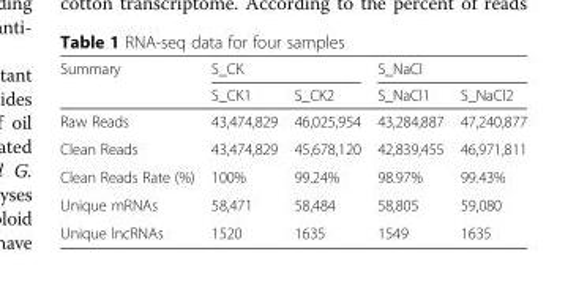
<table><thead><tr><td rowspan="2">Summary</td><td colspan="2">S_CK</td><td colspan="2">S_NaCl</td></tr><tr><td>S_CK1</td><td>S_CK2</td><td>S_NaCl1</td><td>S_NaCl2</td></tr></thead><tbody><tr><td>Raw Reads</td><td>43,474,829</td><td>46,025,954</td><td>43,284,887</td><td>47,240,877</td></tr><tr><td>Clean Reads</td><td>43,474,829</td><td>45,678,120</td><td>42,839,455</td><td>46,971,811</td></tr><tr><td>Clean Reads Rate (%)</td><td>100%</td><td>99.24%</td><td>98.97%</td><td>99.43%</td></tr><tr><td>Unique mRNAs</td><td>58,471</td><td>58,484</td><td>58,805</td><td>59,080</td></tr><tr><td>Unique lncRNAs</td><td>1520</td><td>1635</td><td>1549</td><td>1635</td></tr></tbody></table>